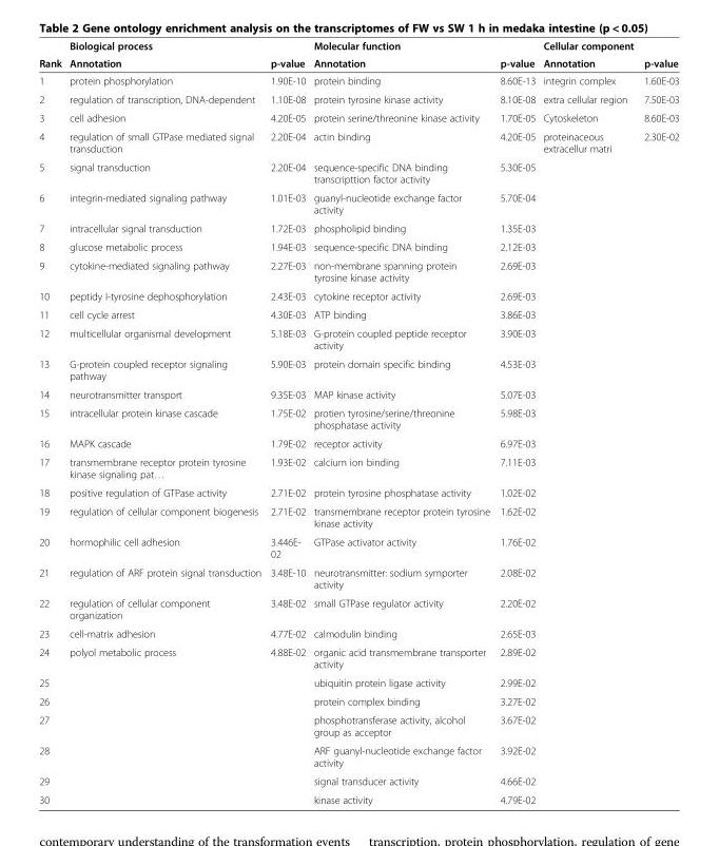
<table><thead><tr><td rowspan="2">Rank</td><td rowspan="2">Biological process Annotation</td><td rowspan="2">p-value</td><td rowspan="2">Molecular function Annotation</td><td rowspan="2">p-value</td><td rowspan="2">Cellular component Annotation</td><td rowspan="2">p-value</td></tr><tr></tr></thead><tbody><tr><td>1</td><td>protein phosphorylation</td><td>1.90E-10</td><td>protein binding</td><td>8.60E-13</td><td>integrin complex</td><td>1.60E-03</td></tr><tr><td>2</td><td>regulation of transcription, DNA-dependent</td><td>1.10E-08</td><td>protein tyrosine kinase activity</td><td>8.10E-08</td><td>extra cellular region</td><td>7.50E-03</td></tr><tr><td>3</td><td>cell adhesion</td><td>4.20E-05</td><td>protein serine/threonine kinase activity</td><td>1.70E-05</td><td>Cytoskeleton</td><td>8.60E-03</td></tr><tr><td>4</td><td>regulation of small GTPase mediated signal transduction</td><td>2.20E-04</td><td>actin binding</td><td>4.20E-05</td><td>proteinaceous extracellur matri</td><td>2.30E-02</td></tr><tr><td>5</td><td>signal transduction</td><td>2.20E-04</td><td>sequence-specific DNA binding transcripttion factor activity</td><td>5.30E-05</td><td></td><td></td></tr><tr><td>6</td><td>integrin-mediated signaling pathway</td><td>1.01E-03</td><td>guanyl-nucleotide exchange factor activity</td><td>5.70E-04</td><td></td><td></td></tr><tr><td>7</td><td>intracellular signal transduction</td><td>1.72E-03</td><td>phospholipid binding</td><td>1.35E-03</td><td></td><td></td></tr><tr><td>8</td><td>glucose metabolic process</td><td>1.94E-03</td><td>sequence-specific DNA binding</td><td>2.12E-03</td><td></td><td></td></tr><tr><td>9</td><td>cytokine-mediated signaling pathway</td><td>2.27E-03</td><td>non-membrane spanning protein tyrosine kinase activity</td><td>2.69E-03</td><td></td><td></td></tr><tr><td>10</td><td>peptidy I-tyrosine dephosphorylation</td><td>2.43E-03</td><td>cytokine receptor activity</td><td>2.69E-03</td><td></td><td></td></tr><tr><td>11</td><td>cell cycle arrest</td><td>4.30E-03</td><td>ATP binding</td><td>3.86E-03</td><td></td><td></td></tr><tr><td>12</td><td>multicellular organismal development</td><td>5.18E-03</td><td>G-protein coupled peptide receptor activity</td><td>3.90E-03</td><td></td><td></td></tr><tr><td>13</td><td>G-protein coupled receptor signaling pathway</td><td>5.90E-03</td><td>protein domain specific binding</td><td>4.53E-03</td><td></td><td></td></tr><tr><td>14</td><td>neurotransmitter transport</td><td>9.35E-03</td><td>MAP kinase activity</td><td>5.07E-03</td><td></td><td></td></tr><tr><td>15</td><td>intracellular protein kinase cascade</td><td>1.75E-02</td><td>protien tyrosine/serine/threonine phosphatase activity</td><td>5.98E-03</td><td></td><td></td></tr><tr><td>16</td><td>MAPK cascade</td><td>1.79E-02</td><td>receptor activity</td><td>6.97E-03</td><td></td><td></td></tr><tr><td>17</td><td>transmembrane receptor protein tyrosine kinase signaling pat…</td><td>1.93E-02</td><td>calcium ion binding</td><td>7.11E-03</td><td></td><td></td></tr><tr><td>18</td><td>positive regulation of GTPase activity</td><td>2.71E-02</td><td>protein tyrosine phosphatase activity</td><td>1.02E-02</td><td></td><td></td></tr><tr><td>19</td><td>regulation of cellular component biogenesis</td><td>2.71E-02</td><td>transmembrane receptor protein tyrosine kinase activity</td><td>1.62E-02</td><td></td><td></td></tr><tr><td>20</td><td>hormophilic cell adhesion</td><td>3.446E- 02</td><td>GTPase activator activity</td><td>1.76E-02</td><td></td><td></td></tr><tr><td>21</td><td>regulation of ARF protein signal transduction</td><td>3.48E-10</td><td>neurotransmitter: sodium symporter activity</td><td>2.08E-02</td><td></td><td></td></tr><tr><td>22</td><td>regulation of cellular component organization</td><td>3.48E-02</td><td>small GTPase regulator activity</td><td>2.20E-02</td><td></td><td></td></tr><tr><td>23</td><td>cell-matrix adhesion</td><td>4.77E-02</td><td>calmodulin binding</td><td>2.65E-03</td><td></td><td></td></tr><tr><td>24</td><td>polyol metabolic process</td><td>4.88E-02</td><td>organic acid transmembrane transporter activity</td><td>2.89E-02</td><td></td><td></td></tr><tr><td>25</td><td></td><td></td><td>ubiquitin protein ligase activity</td><td>2.99E-02</td><td></td><td></td></tr><tr><td>26</td><td></td><td></td><td>protein complex binding</td><td>3.27E-02</td><td></td><td></td></tr><tr><td>27</td><td></td><td></td><td>phosphotransferase activity, alcohol group as acceptor</td><td>3.67E-02</td><td></td><td></td></tr><tr><td>28</td><td></td><td></td><td>ARF guanyl-nucleotide exchange factor activity</td><td>3.92E-02</td><td></td><td></td></tr><tr><td>29</td><td></td><td></td><td>signal transducer activity</td><td>4.66E-02</td><td></td><td></td></tr><tr><td>30</td><td></td><td></td><td>kinase activity</td><td>4.79E-02</td><td></td><td></td></tr></tbody></table>